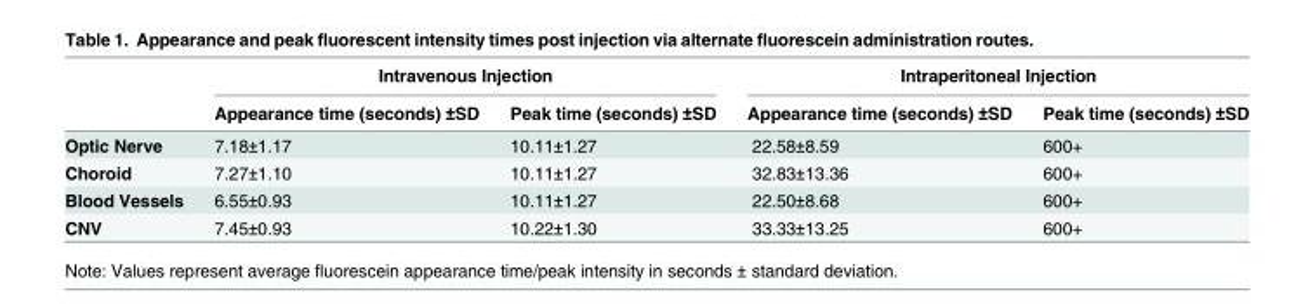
<table><thead><tr><td rowspan="2"></td><td colspan="2">Intravenous Injection</td><td colspan="2">Intraperitoneal Injection</td></tr><tr><td>Appearance time (seconds) ±SD</td><td>Peak time (seconds) ±SD</td><td>Appearance time (seconds) ±SD</td><td>Peak time (seconds) ±SD</td></tr></thead><tbody><tr><td>Optic Nerve</td><td>7.18±1.17</td><td>10.11±1.27</td><td>22.58±8.59</td><td>600+</td></tr><tr><td>Choroid</td><td>7.27±1.10</td><td>10.11±1.27</td><td>32.83±13.36</td><td>600+</td></tr><tr><td>Blood Vessels</td><td>6.55±0.93</td><td>10.11±1.27</td><td>22.50±8.68</td><td>600+</td></tr><tr><td>CNV</td><td>7.45±0.93</td><td>10.22±1.30</td><td>33.33±13.25</td><td>600+</td></tr></tbody></table>